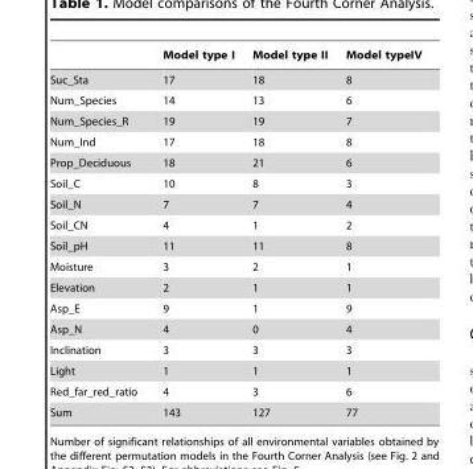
<table><thead><tr><td></td><td>Model type I</td><td>Model type II</td><td>Model typeIV</td></tr></thead><tbody><tr><td>Suc_Sta</td><td>17</td><td>18</td><td>8</td></tr><tr><td>Num_Species</td><td>14</td><td>13</td><td>6</td></tr><tr><td>Num_Species_R</td><td>19</td><td>19</td><td>7</td></tr><tr><td>Num_Ind</td><td>17</td><td>18</td><td>8</td></tr><tr><td>Prop_Deciduous</td><td>18</td><td>21</td><td>6</td></tr><tr><td>Soil_C</td><td>10</td><td>8</td><td>3</td></tr><tr><td>Soil_N</td><td>7</td><td>7</td><td>4</td></tr><tr><td>Soil_CN</td><td>4</td><td>1</td><td>2</td></tr><tr><td>Soil_pH</td><td>11</td><td>11</td><td>8</td></tr><tr><td>Moisture</td><td>3</td><td>2</td><td>1</td></tr><tr><td>Elevation</td><td>2</td><td>1</td><td>1</td></tr><tr><td>Asp_E</td><td>9</td><td>1</td><td>9</td></tr><tr><td>Asp_N</td><td>4</td><td>0</td><td>4</td></tr><tr><td>Inclination</td><td>3</td><td>3</td><td>3</td></tr><tr><td>Light</td><td>1</td><td>1</td><td>1</td></tr><tr><td>Red_far_red_ratio</td><td>4</td><td>3</td><td>6</td></tr><tr><td>Sum</td><td>143</td><td>127</td><td>77</td></tr></tbody></table>